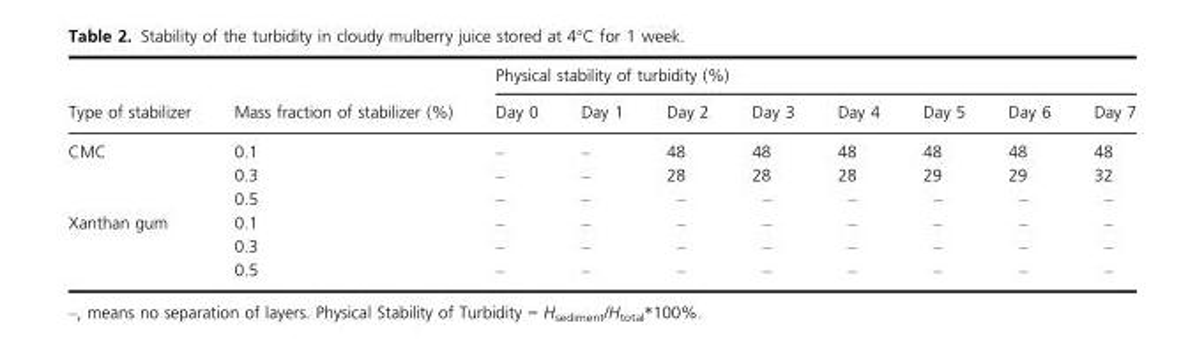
<table><thead><tr><td rowspan="2">Type of stabilizer</td><td rowspan="2">Mass fraction of stabilizer (%)</td><td colspan="8">Physical stability of turbidity (%)</td></tr><tr><td>Day 0</td><td>Day 1</td><td>Day 2</td><td>Day 3</td><td>Day 4</td><td>Day 5</td><td>Day 6</td><td>Day 7</td></tr></thead><tbody><tr><td rowspan="3">CMC</td><td>0.1</td><td>–</td><td>–</td><td>48</td><td>48</td><td>48</td><td>48</td><td>48</td><td>48</td></tr><tr><td>0.3</td><td>–</td><td>–</td><td>28</td><td>28</td><td>28</td><td>29</td><td>29</td><td>32</td></tr><tr><td>0.5</td><td>–</td><td>–</td><td>–</td><td>–</td><td>–</td><td>–</td><td>–</td><td>–</td></tr><tr><td rowspan="3">Xanthan gum</td><td>0.1</td><td>–</td><td>–</td><td>–</td><td>–</td><td>–</td><td>–</td><td>–</td><td>–</td></tr><tr><td>0.3</td><td>–</td><td>–</td><td>–</td><td>–</td><td>–</td><td>–</td><td>–</td><td>–</td></tr><tr><td>0.5</td><td>–</td><td>–</td><td>–</td><td>–</td><td>–</td><td>–</td><td>–</td><td>–</td></tr></tbody></table>